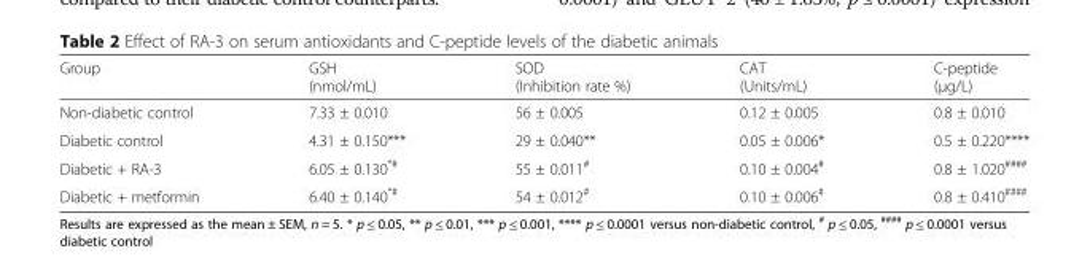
<table><thead><tr><td>Group</td><td>GSH (nmol/mL)</td><td>SOD (Inhibition rate %)</td><td>CAT (Units/mL)</td><td>C-peptide (μg/L)</td></tr></thead><tbody><tr><td>Non-diabetic control</td><td>7.33 ± 0.010</td><td>56 ± 0.005</td><td>0.12 ± 0.005</td><td>0.8 ± 0.010</td></tr><tr><td>Diabetic control</td><td>4.31 ± 0.150***</td><td>29 ± 0.040**</td><td>0.05 ± 0.006*</td><td>0.5 ± 0.220****</td></tr><tr><td>Diabetic + RA-3</td><td>6.05 ± 0.130<sup>*#</sup></td><td>55 ± 0.011<sup>#</sup></td><td>0.10 ± 0.004<sup>#</sup></td><td>0.8 ± 1.020<sup>####</sup></td></tr><tr><td>Diabetic + metformin</td><td>6.40 ± 0.140<sup>*#</sup></td><td>54 ± 0.012<sup>#</sup></td><td>0.10 ± 0.006<sup>#</sup></td><td>0.8 ± 0.410<sup>####</sup></td></tr></tbody></table>